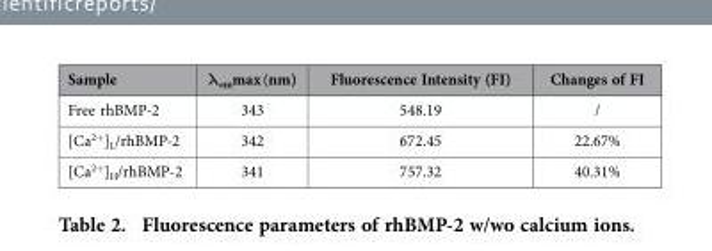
<table><thead><tr><td>Sample</td><td>λ<sub>em</sub>max (nm)</td><td>Fluorescence Intensity (FI)</td><td>Changes of FI</td></tr></thead><tbody><tr><td>Free rhBMP-2</td><td>343</td><td>548.19</td><td>/</td></tr><tr><td>[Ca<sup>2+</sup>]<sub>L</sub>/rhBMP-2</td><td>342</td><td>672.45</td><td>22.67%</td></tr><tr><td>[Ca<sup>2+</sup>]<sub>H</sub>/rhBMP-2</td><td>341</td><td>757.32</td><td>40.31%</td></tr></tbody></table>